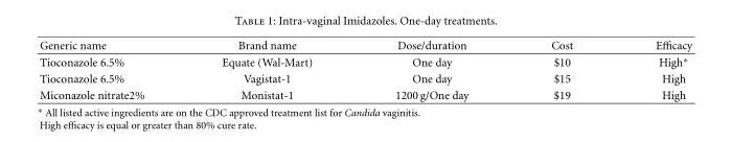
<table><tbody><tr><td>Generic name</td><td>Brand name</td><td>Dose/duration</td><td>Cost</td><td>Efficacy</td></tr><tr><td>Tioconazole 6.5%</td><td>Equate (Wal-Mart)</td><td>One day</td><td>$10</td><td>High∗</td></tr><tr><td>Tioconazole 6.5%</td><td>Vagistat-1</td><td>One day</td><td>$15</td><td>High</td></tr><tr><td>Miconazole nitrate2%</td><td>Monistat-1</td><td>1200 g/One day</td><td>$19</td><td>High</td></tr></tbody></table>